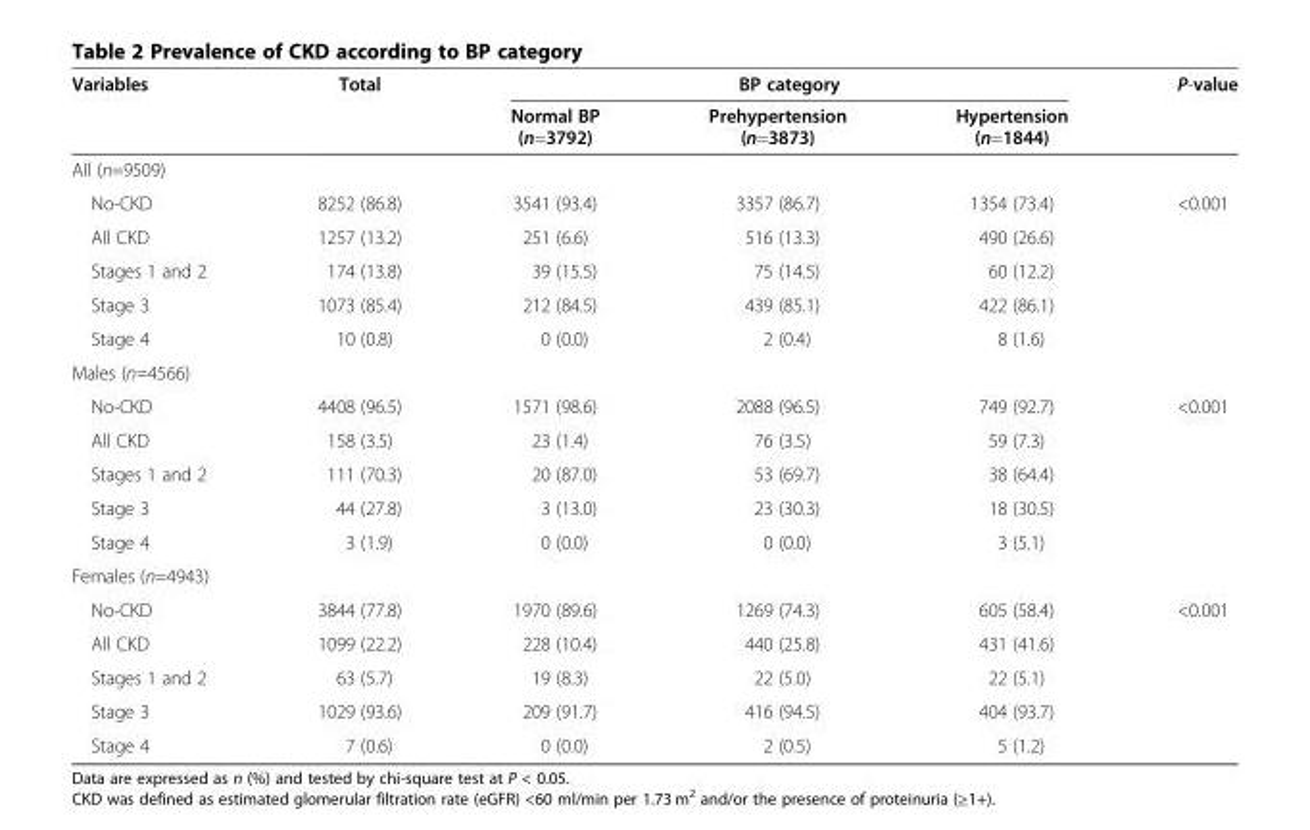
<table><thead><tr><td rowspan="2">Variables</td><td rowspan="2">Total</td><td colspan="3">BP category</td><td rowspan="2">P-value</td></tr><tr><td>Normal BP (n=3792)</td><td>Prehypertension (n=3873)</td><td>Hypertension (n=1844)</td></tr></thead><tbody><tr><td colspan="6">All (n=9509)</td></tr><tr><td>No-CKD</td><td>8252 (86.8)</td><td>3541 (93.4)</td><td>3357 (86.7)</td><td>1354 (73.4)</td><td rowspan="2">&lt;0.001</td></tr><tr><td>All CKD</td><td>1257 (13.2)</td><td>251 (6.6)</td><td>516 (13.3)</td><td>490 (26.6)</td></tr><tr><td>Stages 1 and 2</td><td>174 (13.8)</td><td>39 (15.5)</td><td>75 (14.5)</td><td>60 (12.2)</td><td></td></tr><tr><td>Stage 3</td><td>1073 (85.4)</td><td>212 (84.5)</td><td>439 (85.1)</td><td>422 (86.1)</td><td></td></tr><tr><td>Stage 4</td><td>10 (0.8)</td><td>0 (0.0)</td><td>2 (0.4)</td><td>8 (1.6)</td><td></td></tr><tr><td colspan="6">Males (n=4566)</td></tr><tr><td>No-CKD</td><td>4408 (96.5)</td><td>1571 (98.6)</td><td>2088 (96.5)</td><td>749 (92.7)</td><td rowspan="2">&lt;0.001</td></tr><tr><td>All CKD</td><td>158 (3.5)</td><td>23 (1.4)</td><td>76 (3.5)</td><td>59 (7.3)</td></tr><tr><td>Stages 1 and 2</td><td>111 (70.3)</td><td>20 (87.0)</td><td>53 (69.7)</td><td>38 (64.4)</td><td></td></tr><tr><td>Stage 3</td><td>44 (27.8)</td><td>3 (13.0)</td><td>23 (30.3)</td><td>18 (30.5)</td><td></td></tr><tr><td>Stage 4</td><td>3 (1.9)</td><td>0 (0.0)</td><td>0 (0.0)</td><td>3 (5.1)</td><td></td></tr><tr><td colspan="6">Females (n=4943)</td></tr><tr><td>No-CKD</td><td>3844 (77.8)</td><td>1970 (89.6)</td><td>1269 (74.3)</td><td>605 (58.4)</td><td rowspan="2">&lt;0.001</td></tr><tr><td>All CKD</td><td>1099 (22.2)</td><td>228 (10.4)</td><td>440 (25.8)</td><td>431 (41.6)</td></tr><tr><td>Stages 1 and 2</td><td>63 (5.7)</td><td>19 (8.3)</td><td>22 (5.0)</td><td>22 (5.1)</td><td></td></tr><tr><td>Stage 3</td><td>1029 (93.6)</td><td>209 (91.7)</td><td>416 (94.5)</td><td>404 (93.7)</td><td></td></tr><tr><td>Stage 4</td><td>7 (0.6)</td><td>0 (0.0)</td><td>2 (0.5)</td><td>5 (1.2)</td><td></td></tr></tbody></table>